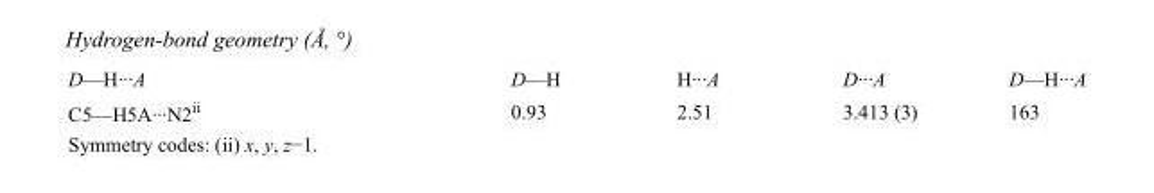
<table><tbody><tr><td>D—H···A</td><td>D—H</td><td>H···A</td><td>D···A</td><td>D—H···A</td></tr><tr><td>C5—H5A···N2<sup>ii</sup></td><td>0.93</td><td>2.51</td><td>3.413 (3)</td><td>163</td></tr></tbody></table>